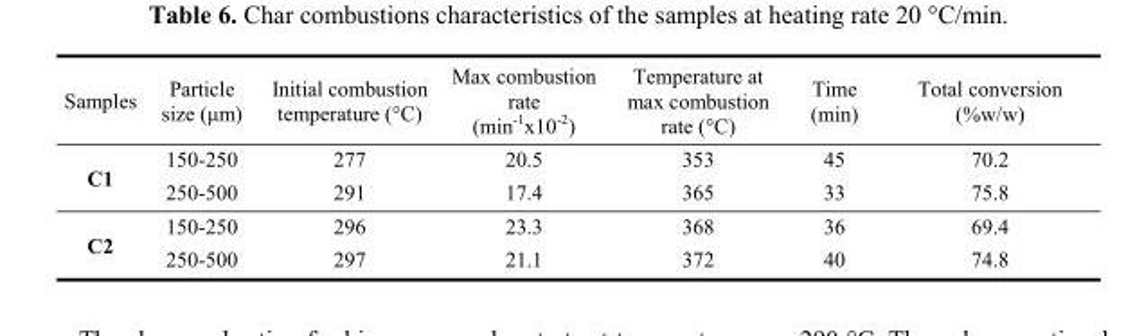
<table><thead><tr><td>Samples</td><td>Particle size (μm)</td><td>Initial combustion temperature (°C)</td><td>Max combustion rate (min-1x10-2)</td><td>Temperature at max combustion rate (°C)</td><td>Time (min)</td><td>Total conversion (%w/w)</td></tr></thead><tbody><tr><td rowspan="2">C1</td><td>150-250</td><td>277</td><td>20.5</td><td>353</td><td>45</td><td>70.2</td></tr><tr><td>250-500</td><td>291</td><td>17.4</td><td>365</td><td>33</td><td>75.8</td></tr><tr><td rowspan="2">C2</td><td>150-250</td><td>296</td><td>23.3</td><td>368</td><td>36</td><td>69.4</td></tr><tr><td>250-500</td><td>297</td><td>21.1</td><td>372</td><td>40</td><td>74.8</td></tr></tbody></table>